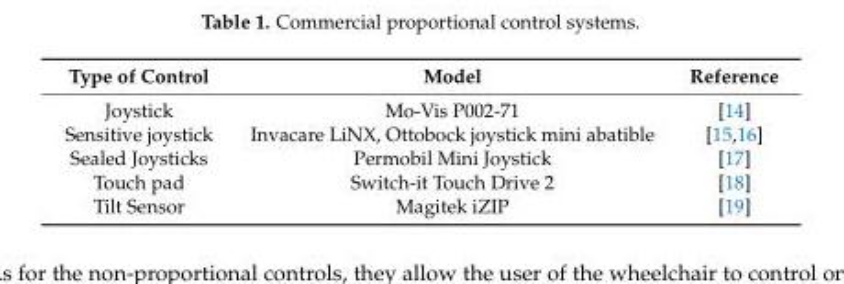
<table><thead><tr><td>Type of Control</td><td>Model</td><td>Reference</td></tr></thead><tbody><tr><td>Joystick</td><td>Mo-Vis P002-71</td><td>[14]</td></tr><tr><td>Sensitive joystick</td><td>Invacare LiNX, Ottobock joystick mini abatible</td><td>[15,16]</td></tr><tr><td>Sealed Joysticks</td><td>Permobil Mini Joystick</td><td>[17]</td></tr><tr><td>Touch pad</td><td>Switch-it Touch Drive 2</td><td>[18]</td></tr><tr><td>Tilt Sensor</td><td>Magitek iZIP</td><td>[19]</td></tr></tbody></table>